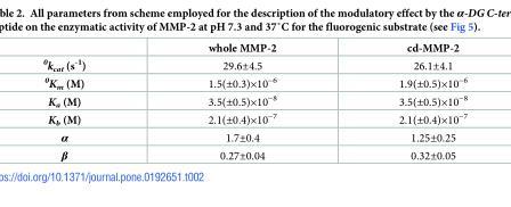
<table><thead><tr><td></td><td>whole MMP-2</td><td>cd-MMP-2</td></tr></thead><tbody><tr><td><sup>0</sup>k<sub>cat</sub> (s<sup>-1</sup>)</td><td>29.6±4.5</td><td>26.1±4.1</td></tr><tr><td><sup>0</sup>K<sub>m</sub> (M)</td><td>1.5(±0.3)×10<sup>−6</sup></td><td>1.9(±0.5)×10<sup>−6</sup></td></tr><tr><td>K<sub>a</sub> (M)</td><td>3.5(±0.5)×10<sup>−8</sup></td><td>3.5(±0.5)×10<sup>−8</sup></td></tr><tr><td>K<sub>b</sub> (M)</td><td>2.1(±0.4)×10<sup>−7</sup></td><td>2.1(±0.4)×10<sup>−7</sup></td></tr><tr><td>α</td><td>1.7±0.4</td><td>1.25±0.25</td></tr><tr><td>β</td><td>0.27±0.04</td><td>0.32±0.05</td></tr></tbody></table>